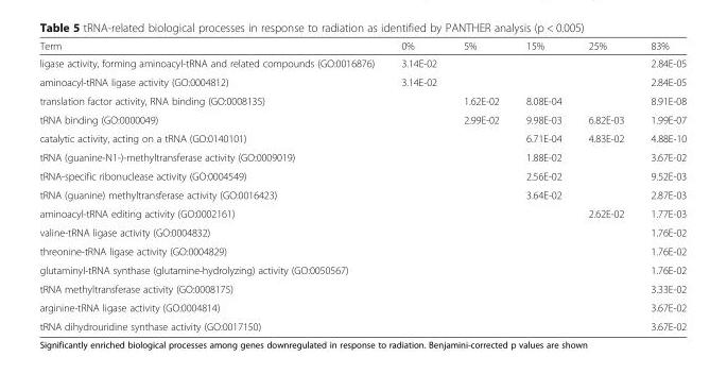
<table><thead><tr><td>Term</td><td>0%</td><td>5%</td><td>15%</td><td>25%</td><td>83%</td></tr></thead><tbody><tr><td>ligase activity, forming aminoacyl-tRNA and related compounds (GO:0016876)</td><td>3.14E-02</td><td></td><td></td><td></td><td>2.84E-05</td></tr><tr><td>aminoacyl-tRNA ligase activity (GO:0004812)</td><td>3.14E-02</td><td></td><td></td><td></td><td>2.84E-05</td></tr><tr><td>translation factor activity, RNA binding (GO:0008135)</td><td></td><td>1.62E-02</td><td>8.08E-04</td><td></td><td>8.91E-08</td></tr><tr><td>tRNA binding (GO:0000049)</td><td></td><td>2.99E-02</td><td>9.98E-03</td><td>6.82E-03</td><td>1.99E-07</td></tr><tr><td>catalytic activity, acting on a tRNA (GO:0140101)</td><td></td><td></td><td>6.71E-04</td><td>4.83E-02</td><td>4.88E-10</td></tr><tr><td>tRNA (guanine-N1-)-methyltransferase activity (GO:0009019)</td><td></td><td></td><td>1.88E-02</td><td></td><td>3.67E-02</td></tr><tr><td>tRNA-specific ribonuclease activity (GO:0004549)</td><td></td><td></td><td>2.56E-02</td><td></td><td>9.52E-03</td></tr><tr><td>tRNA (guanine) methyltransferase activity (GO:0016423)</td><td></td><td></td><td>3.64E-02</td><td></td><td>2.87E-03</td></tr><tr><td>aminoacyl-tRNA editing activity (GO:0002161)</td><td></td><td></td><td></td><td>2.62E-02</td><td>1.77E-03</td></tr><tr><td>valine-tRNA ligase activity (GO:0004832)</td><td></td><td></td><td></td><td></td><td>1.76E-02</td></tr><tr><td>threonine-tRNA ligase activity (GO:0004829)</td><td></td><td></td><td></td><td></td><td>1.76E-02</td></tr><tr><td>glutaminyl-tRNA synthase (glutamine-hydrolyzing) activity (GO:0050567)</td><td></td><td></td><td></td><td></td><td>1.76E-02</td></tr><tr><td>tRNA methyltransferase activity (GO:0008175)</td><td></td><td></td><td></td><td></td><td>3.33E-02</td></tr><tr><td>arginine-tRNA ligase activity (GO:0004814)</td><td></td><td></td><td></td><td></td><td>3.67E-02</td></tr><tr><td>tRNA dihydrouridine synthase activity (GO:0017150)</td><td></td><td></td><td></td><td></td><td>3.67E-02</td></tr></tbody></table>